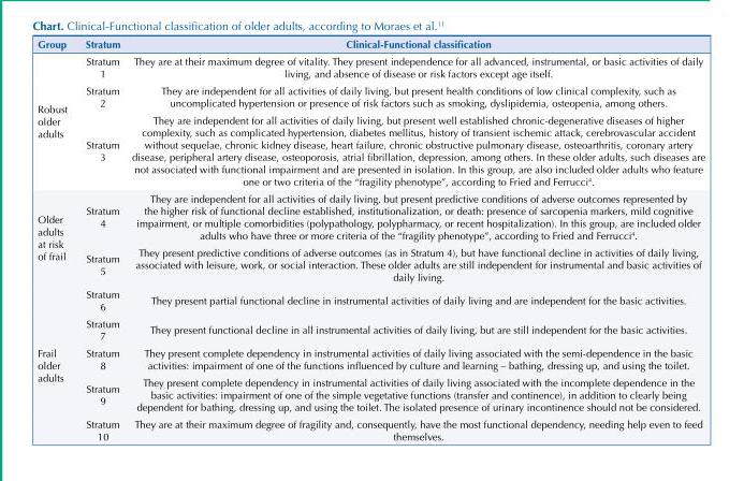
<table><thead><tr><td>Group</td><td>Stratum</td><td>Clinical-Functional classification</td></tr></thead><tbody><tr><td rowspan="3">Robust older adults</td><td>Stratum 1</td><td>They are at their maximum degree of vitality. They present independence for all advanced, instrumental, or basic activities of daily living, and absence of disease or risk factors except age itself.</td></tr><tr><td>Stratum 2</td><td>They are independent for all activities of daily living, but present health conditions of low clinical complexity, such as uncomplicated hypertension or presence of risk factors such as smoking, dyslipidemia, osteopenia, among others.</td></tr><tr><td>Stratum 3</td><td>They are independent for all activities of daily living, but present well established chronic-degenerative diseases of higher complexity, such as complicated hypertension, diabetes mellitus, history of transient ischemic attack, cerebrovascular accident without sequelae, chronic kidney disease, heart failure, chronic obstructive pulmonary disease, osteoarthritis, coronary artery disease, peripheral artery disease, osteoporosis, atrial fibrillation, depression, among others. In these older adults, such diseases are not associated with functional impairment and are presented in isolation. In this group, are also included older adults who feature one or two criteria of the “fragility phenotype”, according to Fried and Ferrucci<sup>4</sup>.</td></tr><tr><td rowspan="2">Older adults at risk of frail</td><td>Stratum 4</td><td>They are independent for all activities of daily living, but present predictive conditions of adverse outcomes represented by the higher risk of functional decline established, institutionalization, or death: presence of sarcopenia markers, mild cognitive impairment, or multiple comorbidities (polypathology, polypharmacy, or recent hospitalization). In this group, are included older adults who have three or more criteria of the “fragility phenotype”, according to Fried and Ferrucci<sup>4</sup>.</td></tr><tr><td>Stratum 5</td><td>They present predictive conditions of adverse outcomes (as in Stratum 4), but have functional decline in activities of daily living, associated with leisure, work, or social interaction. These older adults are still independent for instrumental and basic activities of daily living.</td></tr><tr><td rowspan="5">Frail older adults</td><td>Stratum 6</td><td>They present partial functional decline in instrumental activities of daily living and are independent for the basic activities.</td></tr><tr><td>Stratum 7</td><td>They present functional decline in all instrumental activities of daily living, but are still independent for the basic activities.</td></tr><tr><td>Stratum 8</td><td>They present complete dependency in instrumental activities of daily living associated with the semi-dependence in the basic activities: impairment of one of the functions influenced by culture and learning – bathing, dressing up, and using the toilet.</td></tr><tr><td>Stratum 9</td><td>They present complete dependency in instrumental activities of daily living associated with the incomplete dependence in the basic activities: impairment of one of the simple vegetative functions (transfer and continence), in addition to clearly being dependent for bathing, dressing up, and using the toilet. The isolated presence of urinary incontinence should not be considered.</td></tr><tr><td>Stratum 10</td><td>They are at their maximum degree of fragility and, consequently, have the most functional dependency, needing help even to feed themselves.</td></tr></tbody></table>